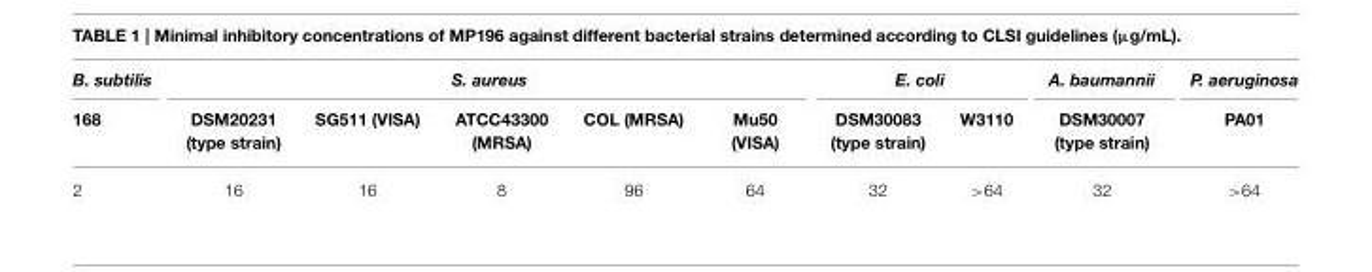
<table><thead><tr><td rowspan="2">B. subtilis 168</td><td colspan="5">S. aureus</td><td colspan="2">E. coli</td><td rowspan="2">A. baumannii DSM30007 (type strain)</td><td rowspan="2">P. aeruginosa PA01</td></tr><tr><td>DSM20231 (type strain)</td><td>SG511 (VISA)</td><td>ATCC43300 (MRSA)</td><td>COL (MRSA)</td><td>Mu50 (VISA)</td><td>DSM30083 (type strain)</td><td>W3110</td></tr></thead><tbody><tr><td>2</td><td>16</td><td>16</td><td>8</td><td>96</td><td>64</td><td>32</td><td>&gt;64</td><td>32</td><td>&gt;64</td></tr></tbody></table>